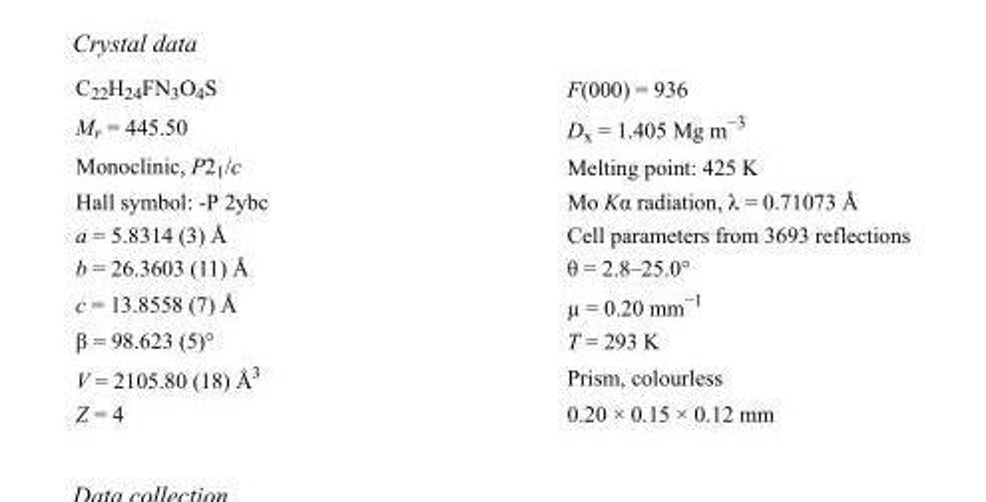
<table><tbody><tr><td>C<sub>22</sub>H<sub>24</sub>FN<sub>3</sub>O<sub>4</sub>S</td><td>F(000) = 936</td></tr><tr><td>M<sub>r</sub> = 445.50</td><td>D<sub>x</sub> = 1.405 Mg m<sup>−3</sup></td></tr><tr><td>Monoclinic, P2<sub>1</sub>/c</td><td>Melting point: 425 K</td></tr><tr><td>Hall symbol: -P 2ybc</td><td>Mo Kα radiation, λ = 0.71073 Å</td></tr><tr><td>a = 5.8314 (3) Å</td><td>Cell parameters from 3693 reflections</td></tr><tr><td>b = 26.3603 (11) Å</td><td>θ = 2.8–25.0°</td></tr><tr><td>c = 13.8558 (7) Å</td><td>µ = 0.20 mm<sup>−1</sup></td></tr><tr><td>β = 98.623 (5)°</td><td>T = 293 K</td></tr><tr><td>V = 2105.80 (18) Å<sup>3</sup></td><td>Prism, colourless</td></tr><tr><td>Z = 4</td><td>0.20 × 0.15 × 0.12 mm</td></tr></tbody></table>